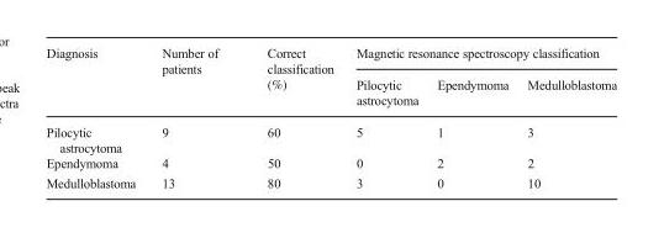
<table><thead><tr><td rowspan="2">Diagnosis</td><td rowspan="2">Number of patients</td><td rowspan="2">Correct classification (%)</td><td colspan="3">Magnetic resonance spectroscopy classification</td></tr><tr><td>Pilocytic astrocytoma</td><td>Ependymoma</td><td>Medulloblastoma</td></tr></thead><tbody><tr><td>Pilocytic astrocytoma</td><td>9</td><td>60</td><td>5</td><td>1</td><td>3</td></tr><tr><td>Ependymoma</td><td>4</td><td>50</td><td>0</td><td>2</td><td>2</td></tr><tr><td>Medulloblastoma</td><td>13</td><td>80</td><td>3</td><td>0</td><td>10</td></tr></tbody></table>